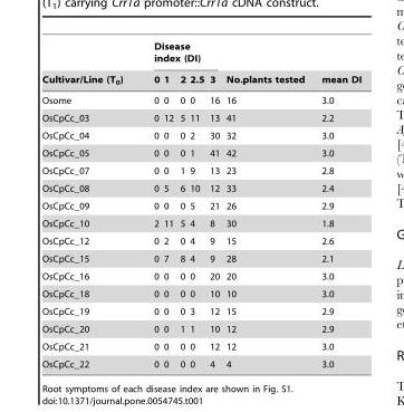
<table><thead><tr><td rowspan="2">Cultivar/Line (T<sub>0</sub>)</td><td colspan="5">Disease index (DI)</td><td rowspan="2">No.plants tested</td><td rowspan="2">mean DI</td></tr><tr><td>0</td><td>1</td><td>2</td><td>2.5</td><td>3</td></tr></thead><tbody><tr><td>Osome</td><td>0</td><td>0</td><td>0</td><td>0</td><td>16</td><td>16</td><td>3.0</td></tr><tr><td>OsCpCc_03</td><td>0</td><td>12</td><td>5</td><td>11</td><td>13</td><td>41</td><td>2.2</td></tr><tr><td>OsCpCc_04</td><td>0</td><td>0</td><td>0</td><td>2</td><td>30</td><td>32</td><td>3.0</td></tr><tr><td>OsCpCc_05</td><td>0</td><td>0</td><td>0</td><td>1</td><td>41</td><td>42</td><td>3.0</td></tr><tr><td>OsCpCc_07</td><td>0</td><td>0</td><td>1</td><td>9</td><td>13</td><td>23</td><td>2.8</td></tr><tr><td>OsCpCc_08</td><td>0</td><td>5</td><td>6</td><td>10</td><td>12</td><td>33</td><td>2.4</td></tr><tr><td>OsCpCc_09</td><td>0</td><td>0</td><td>0</td><td>5</td><td>21</td><td>26</td><td>2.9</td></tr><tr><td>OsCpCc_10</td><td>2</td><td>11</td><td>5</td><td>4</td><td>8</td><td>30</td><td>1.8</td></tr><tr><td>OsCpCc_12</td><td>0</td><td>2</td><td>0</td><td>4</td><td>9</td><td>15</td><td>2.6</td></tr><tr><td>OsCpCc_15</td><td>0</td><td>7</td><td>8</td><td>4</td><td>9</td><td>28</td><td>2.1</td></tr><tr><td>OsCpCc_16</td><td>0</td><td>0</td><td>0</td><td>0</td><td>20</td><td>20</td><td>3.0</td></tr><tr><td>OsCpCc_18</td><td>0</td><td>0</td><td>0</td><td>0</td><td>10</td><td>10</td><td>3.0</td></tr><tr><td>OsCpCc_19</td><td>0</td><td>0</td><td>0</td><td>3</td><td>12</td><td>15</td><td>2.9</td></tr><tr><td>OsCpCc_20</td><td>0</td><td>0</td><td>1</td><td>1</td><td>10</td><td>12</td><td>2.9</td></tr><tr><td>OsCpCc_21</td><td>0</td><td>0</td><td>0</td><td>0</td><td>12</td><td>12</td><td>3.0</td></tr><tr><td>OsCpCc_22</td><td>0</td><td>0</td><td>0</td><td>0</td><td>4</td><td>4</td><td>3.0</td></tr></tbody></table>